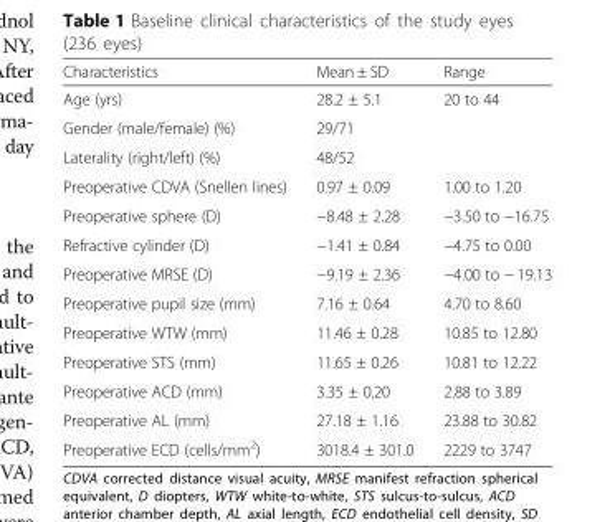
<table><thead><tr><td>Characteristics</td><td>Mean ± SD</td><td>Range</td></tr></thead><tbody><tr><td>Age (yrs)</td><td>28.2 ± 5.1</td><td>20 to 44</td></tr><tr><td>Gender (male/female) (%)</td><td colspan="2">29/71</td></tr><tr><td>Laterality (right/left) (%)</td><td colspan="2">48/52</td></tr><tr><td>Preoperative CDVA (Snellen lines)</td><td>0.97 ± 0.09</td><td>1.00 to 1.20</td></tr><tr><td>Preoperative sphere (D)</td><td>−8.48 ± 2.28</td><td>−3.50 to −16.75</td></tr><tr><td>Refractive cylinder (D)</td><td>−1.41 ± 0.84</td><td>−4.75 to 0.00</td></tr><tr><td>Preoperative MRSE (D)</td><td>−9.19 ± 2.36</td><td>−4.00 to − 19.13</td></tr><tr><td>Preoperative pupil size (mm)</td><td>7.16 ± 0.64</td><td>4.70 to 8.60</td></tr><tr><td>Preoperative WTW (mm)</td><td>11.46 ± 0.28</td><td>10.85 to 12.80</td></tr><tr><td>Preoperative STS (mm)</td><td>11.65 ± 0.26</td><td>10.81 to 12.22</td></tr><tr><td>Preoperative ACD (mm)</td><td>3.35 ± 0.20</td><td>2.88 to 3.89</td></tr><tr><td>Preoperative AL (mm)</td><td>27.18 ± 1.16</td><td>23.88 to 30.82</td></tr><tr><td>Preoperative ECD (cells/mm<sup>2</sup>)</td><td>3018.4 ± 301.0</td><td>2229 to 3747</td></tr></tbody></table>